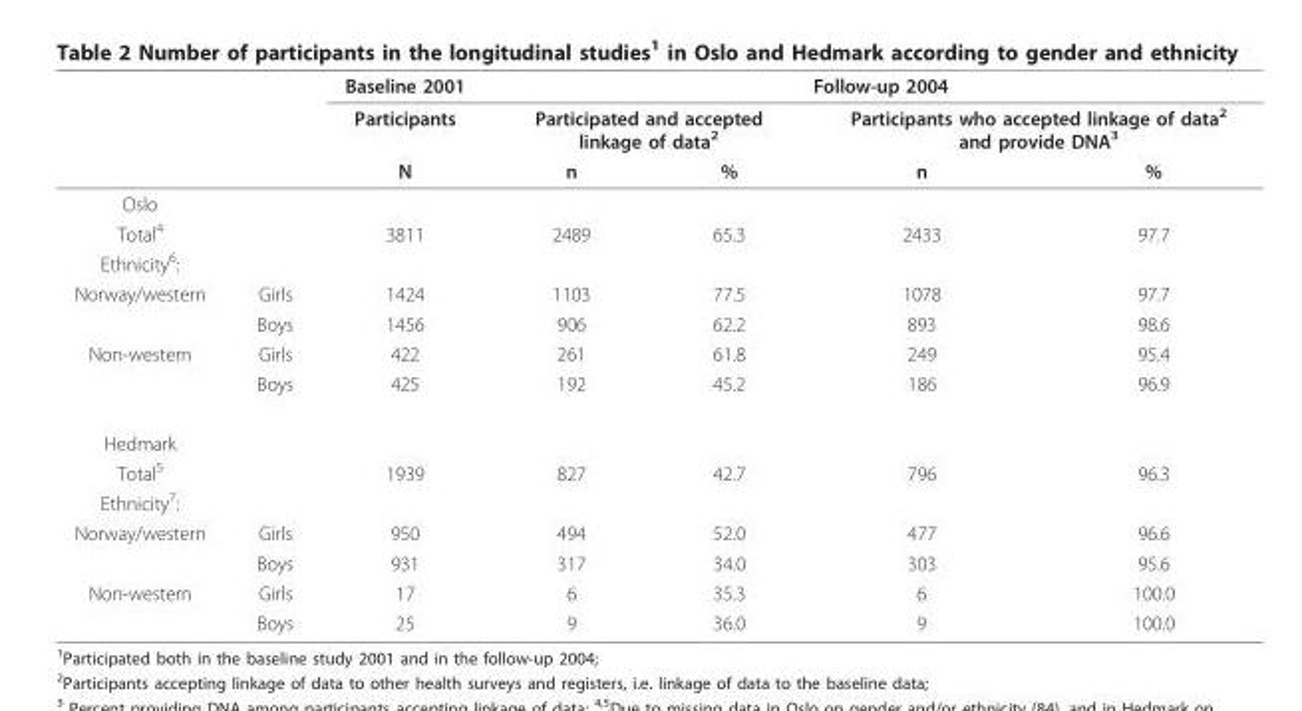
<table><thead><tr><td rowspan="3"></td><td rowspan="3"></td><td rowspan="3">Baseline 2001 Participants N</td><td colspan="4">Follow-up 2004</td></tr><tr><td colspan="2">Participated and accepted linkage of data<sup>2</sup></td><td colspan="2">Participants who accepted linkage of data<sup>2</sup> and provide DNA<sup>3</sup></td></tr><tr><td>n</td><td>%</td><td>n</td><td>%</td></tr></thead><tbody><tr><td colspan="7">Oslo</td></tr><tr><td>Total<sup>4</sup></td><td></td><td>3811</td><td>2489</td><td>65.3</td><td>2433</td><td>97.7</td></tr><tr><td colspan="7">Ethnicity<sup>6</sup>:</td></tr><tr><td rowspan="2">Norway/western</td><td>Girls</td><td>1424</td><td>1103</td><td>77.5</td><td>1078</td><td>97.7</td></tr><tr><td>Boys</td><td>1456</td><td>906</td><td>62.2</td><td>893</td><td>98.6</td></tr><tr><td rowspan="2">Non-western</td><td>Girls</td><td>422</td><td>261</td><td>61.8</td><td>249</td><td>95.4</td></tr><tr><td>Boys</td><td>425</td><td>192</td><td>45.2</td><td>186</td><td>96.9</td></tr><tr><td colspan="7">Hedmark</td></tr><tr><td>Total<sup>5</sup></td><td></td><td>1939</td><td>827</td><td>42.7</td><td>796</td><td>96.3</td></tr><tr><td colspan="7">Ethnicity<sup>7</sup>:</td></tr><tr><td rowspan="2">Norway/western</td><td>Girls</td><td>950</td><td>494</td><td>52.0</td><td>477</td><td>96.6</td></tr><tr><td>Boys</td><td>931</td><td>317</td><td>34.0</td><td>303</td><td>95.6</td></tr><tr><td rowspan="2">Non-western</td><td>Girls</td><td>17</td><td>6</td><td>35.3</td><td>6</td><td>100.0</td></tr><tr><td>Boys</td><td>25</td><td>9</td><td>36.0</td><td>9</td><td>100.0</td></tr></tbody></table>